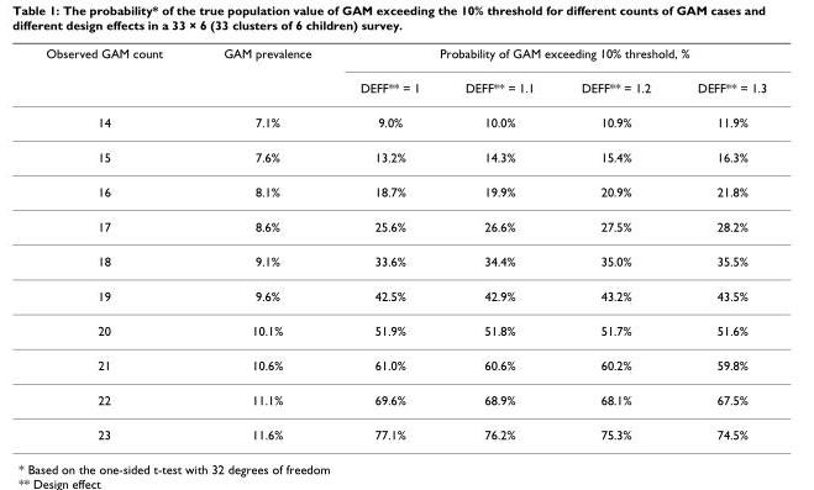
<table><thead><tr><td rowspan="2">Observed GAM count</td><td rowspan="2">GAM prevalence</td><td colspan="4">Probability of GAM exceeding 10% threshold, %</td></tr><tr><td>DEFF** = 1</td><td>DEFF** = 1.1</td><td>DEFF** = 1.2</td><td>DEFF** = 1.3</td></tr></thead><tbody><tr><td>14</td><td>7.1%</td><td>9.0%</td><td>10.0%</td><td>10.9%</td><td>11.9%</td></tr><tr><td>15</td><td>7.6%</td><td>13.2%</td><td>14.3%</td><td>15.4%</td><td>16.3%</td></tr><tr><td>16</td><td>8.1%</td><td>18.7%</td><td>19.9%</td><td>20.9%</td><td>21.8%</td></tr><tr><td>17</td><td>8.6%</td><td>25.6%</td><td>26.6%</td><td>27.5%</td><td>28.2%</td></tr><tr><td>18</td><td>9.1%</td><td>33.6%</td><td>34.4%</td><td>35.0%</td><td>35.5%</td></tr><tr><td>19</td><td>9.6%</td><td>42.5%</td><td>42.9%</td><td>43.2%</td><td>43.5%</td></tr><tr><td>20</td><td>10.1%</td><td>51.9%</td><td>51.8%</td><td>51.7%</td><td>51.6%</td></tr><tr><td>21</td><td>10.6%</td><td>61.0%</td><td>60.6%</td><td>60.2%</td><td>59.8%</td></tr><tr><td>22</td><td>11.1%</td><td>69.6%</td><td>68.9%</td><td>68.1%</td><td>67.5%</td></tr><tr><td>23</td><td>11.6%</td><td>77.1%</td><td>76.2%</td><td>75.3%</td><td>74.5%</td></tr></tbody></table>